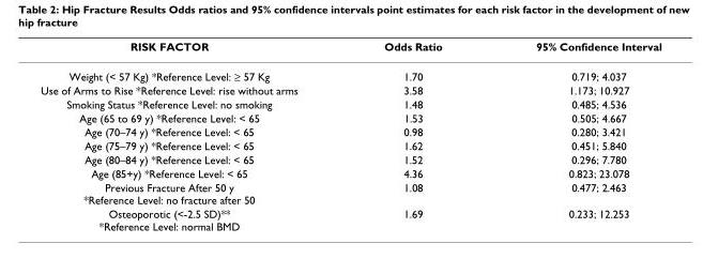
<table><thead><tr><td>RISK FACTOR</td><td>Odds Ratio</td><td>95% Confidence Interval</td></tr></thead><tbody><tr><td>Weight (&lt; 57 Kg) *Reference Level: ≥ 57 Kg</td><td>1.70</td><td>0.719; 4.037</td></tr><tr><td>Use of Arms to Rise *Reference Level: rise without arms</td><td>3.58</td><td>1.173; 10.927</td></tr><tr><td>Smoking Status *Reference Level: no smoking</td><td>1.48</td><td>0.485; 4.536</td></tr><tr><td>Age (65 to 69 y) *Reference Level: &lt; 65</td><td>1.53</td><td>0.505; 4.667</td></tr><tr><td>Age (70–74 y) *Reference Level: &lt; 65</td><td>0.98</td><td>0.280; 3.421</td></tr><tr><td>Age (75–79 y) *Reference Level: &lt; 65</td><td>1.62</td><td>0.451; 5.840</td></tr><tr><td>Age (80–84 y) *Reference Level: &lt; 65</td><td>1.52</td><td>0.296; 7.780</td></tr><tr><td>Age (85+y) *Reference Level: &lt; 65</td><td>4.36</td><td>0.823; 23.078</td></tr><tr><td>Previous Fracture After 50 y *Reference Level: no fracture after 50</td><td>1.08</td><td>0.477; 2.463</td></tr><tr><td>Osteoporotic (&lt;-2.5 SD)** *Reference Level: normal BMD</td><td>1.69</td><td>0.233; 12.253</td></tr></tbody></table>